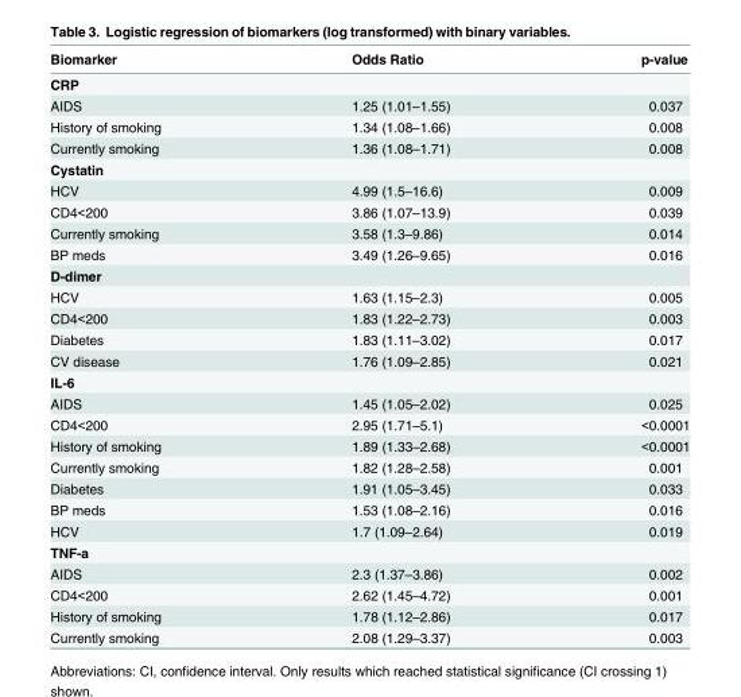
<table><thead><tr><td>Biomarker</td><td>Odds Ratio</td><td>p-value</td></tr></thead><tbody><tr><td colspan="3">CRP</td></tr><tr><td>AIDS</td><td>1.25 (1.01–1.55)</td><td>0.037</td></tr><tr><td>History of smoking</td><td>1.34 (1.08–1.66)</td><td>0.008</td></tr><tr><td>Currently smoking</td><td>1.36 (1.08–1.71)</td><td>0.008</td></tr><tr><td colspan="3">Cystatin</td></tr><tr><td>HCV</td><td>4.99 (1.5–16.6)</td><td>0.009</td></tr><tr><td>CD4&lt;200</td><td>3.86 (1.07–13.9)</td><td>0.039</td></tr><tr><td>Currently smoking</td><td>3.58 (1.3–9.86)</td><td>0.014</td></tr><tr><td>BP meds</td><td>3.49 (1.26–9.65)</td><td>0.016</td></tr><tr><td colspan="3">D-dimer</td></tr><tr><td>HCV</td><td>1.63 (1.15–2.3)</td><td>0.005</td></tr><tr><td>CD4&lt;200</td><td>1.83 (1.22–2.73)</td><td>0.003</td></tr><tr><td>Diabetes</td><td>1.83 (1.11–3.02)</td><td>0.017</td></tr><tr><td>CV disease</td><td>1.76 (1.09–2.85)</td><td>0.021</td></tr><tr><td colspan="3">IL-6</td></tr><tr><td>AIDS</td><td>1.45 (1.05–2.02)</td><td>0.025</td></tr><tr><td>CD4&lt;200</td><td>2.95 (1.71–5.1)</td><td>&lt;0.0001</td></tr><tr><td>History of smoking</td><td>1.89 (1.33–2.68)</td><td>&lt;0.0001</td></tr><tr><td>Currently smoking</td><td>1.82 (1.28–2.58)</td><td>0.001</td></tr><tr><td>Diabetes</td><td>1.91 (1.05–3.45)</td><td>0.033</td></tr><tr><td>BP meds</td><td>1.53 (1.08–2.16)</td><td>0.016</td></tr><tr><td>HCV</td><td>1.7 (1.09–2.64)</td><td>0.019</td></tr><tr><td colspan="3">TNF-a</td></tr><tr><td>AIDS</td><td>2.3 (1.37–3.86)</td><td>0.002</td></tr><tr><td>CD4&lt;200</td><td>2.62 (1.45–4.72)</td><td>0.001</td></tr><tr><td>History of smoking</td><td>1.78 (1.12–2.86)</td><td>0.017</td></tr><tr><td>Currently smoking</td><td>2.08 (1.29–3.37)</td><td>0.003</td></tr></tbody></table>